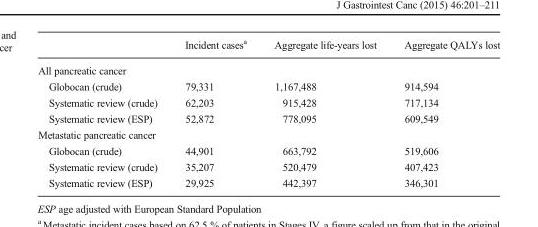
<table><thead><tr><td></td><td>Incident cases<sup>a</sup></td><td>Aggregate life-years lost</td><td>Aggregate QALYs lost</td></tr></thead><tbody><tr><td colspan="4">All pancreatic cancer</td></tr><tr><td>Globocan (crude)</td><td>79,331</td><td>1,167,488</td><td>914,594</td></tr><tr><td>Systematic review (crude)</td><td>62,203</td><td>915,428</td><td>717,134</td></tr><tr><td>Systematic review (ESP)</td><td>52,872</td><td>778,095</td><td>609,549</td></tr><tr><td colspan="4">Metastatic pancreatic cancer</td></tr><tr><td>Globocan (crude)</td><td>44,901</td><td>663,792</td><td>519,606</td></tr><tr><td>Systematic review (crude)</td><td>35,207</td><td>520,479</td><td>407,423</td></tr><tr><td>Systematic review (ESP)</td><td>29,925</td><td>442,397</td><td>346,301</td></tr></tbody></table>